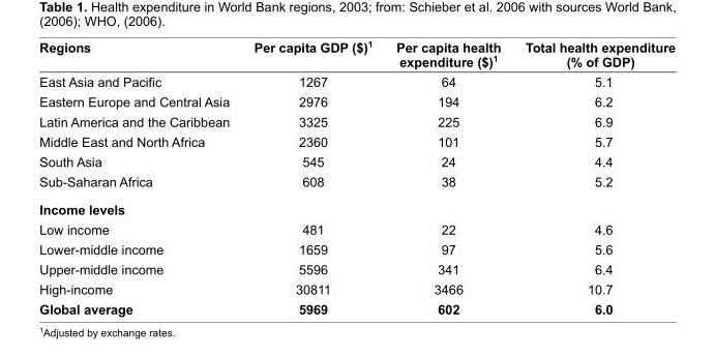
<table><thead><tr><td>Regions</td><td>Per capita GDP ($)<sup>1</sup></td><td>Per capita health expenditure ($)<sup>1</sup></td><td>Total health expenditure (% of GDP)</td></tr></thead><tbody><tr><td>East Asia and Pacifi c</td><td>1267</td><td>64</td><td>5.1</td></tr><tr><td>Eastern Europe and Central Asia</td><td>2976</td><td>194</td><td>6.2</td></tr><tr><td>Latin America and the Caribbean</td><td>3325</td><td>225</td><td>6.9</td></tr><tr><td>Middle East and North Africa</td><td>2360</td><td>101</td><td>5.7</td></tr><tr><td>South Asia</td><td>545</td><td>24</td><td>4.4</td></tr><tr><td>Sub-Saharan Africa</td><td>608</td><td>38</td><td>5.2</td></tr><tr><td colspan="4">Income levels</td></tr><tr><td>Low income</td><td>481</td><td>22</td><td>4.6</td></tr><tr><td>Lower-middle income</td><td>1659</td><td>97</td><td>5.6</td></tr><tr><td>Upper-middle income</td><td>5596</td><td>341</td><td>6.4</td></tr><tr><td>High-income</td><td>30811</td><td>3466</td><td>10.7</td></tr><tr><td>Global average</td><td>5969</td><td>602</td><td>6.0</td></tr></tbody></table>